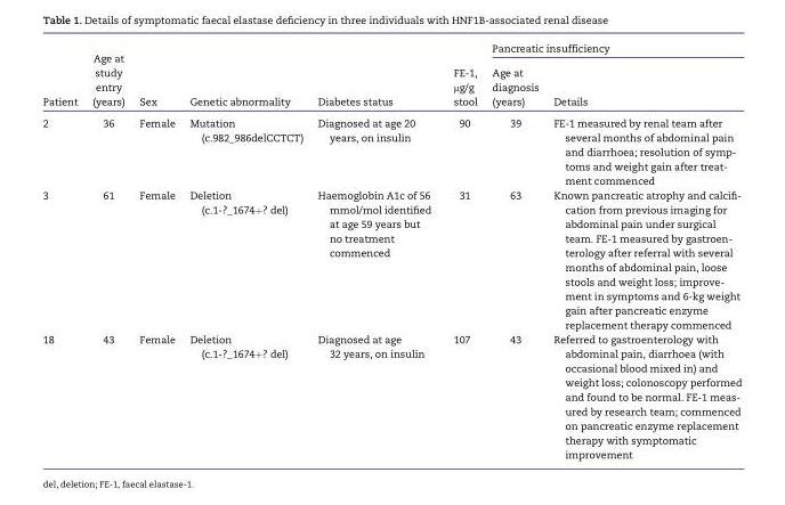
<table><thead><tr><td rowspan="2">Patient</td><td rowspan="2">Age at study entry (years)</td><td rowspan="2">Sex</td><td rowspan="2">Genetic abnormality</td><td rowspan="2">Diabetes status</td><td rowspan="2">FE-1, μg/g stool</td><td colspan="2">Pancreatic insufficiency</td></tr><tr><td>Age at diagnosis (years)</td><td>Details</td></tr></thead><tbody><tr><td>2</td><td>36</td><td>Female</td><td>Mutation (c.982_986delCCTCT)</td><td>Diagnosed at age 20 years, on insulin</td><td>90</td><td>39</td><td>FE-1 measured by renal team after several months of abdominal pain and diarrhoea; resolution of symp- toms and weight gain after treat- ment commenced</td></tr><tr><td>3</td><td>61</td><td>Female</td><td>Deletion (c.1-?_1674+? del)</td><td>Haemoglobin A1c of 56 mmol/mol identified at age 59 years but no treatment commenced</td><td>31</td><td>63</td><td>Known pancreatic atrophy and calcifi- cation from previous imaging for abdominal pain under surgical team. FE-1 measured by gastroen- terology after referral with several months of abdominal pain, loose stools and weight loss; improve- ment in symptoms and 6-kg weight gain after pancreatic enzyme replacement therapy commenced</td></tr><tr><td>18</td><td>43</td><td>Female</td><td>Deletion (c.1-?_1674+? del)</td><td>Diagnosed at age 32 years, on insulin</td><td>107</td><td>43</td><td>Referred to gastroenterology with abdominal pain, diarrhoea (with occasional blood mixed in) and weight loss; colonoscopy performed and found to be normal. FE-1 meas- ured by research team; commenced on pancreatic enzyme replacement therapy with symptomatic improvement</td></tr></tbody></table>